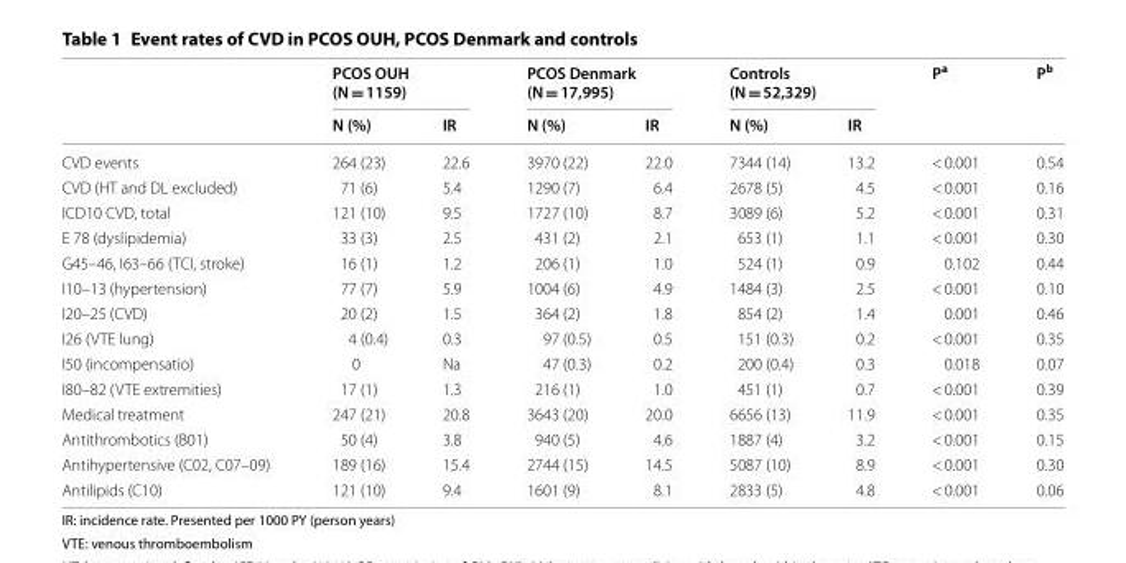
<table><thead><tr><td rowspan="2"></td><td colspan="2">PCOS OUH (N = 1159)</td><td colspan="2">PCOS Denmark (N = 17,995)</td><td colspan="2">Controls (N = 52,329)</td><td rowspan="2">P<sup>a</sup></td><td rowspan="2">P<sup>b</sup></td></tr><tr><td>N (%)</td><td>IR</td><td>N (%)</td><td>IR</td><td>N (%)</td><td>IR</td></tr></thead><tbody><tr><td>CVD events</td><td>264 (23)</td><td>22.6</td><td>3970 (22)</td><td>22.0</td><td>7344 (14)</td><td>13.2</td><td>&lt; 0.001</td><td>0.54</td></tr><tr><td>CVD (HT and DL excluded)</td><td>71 (6)</td><td>5.4</td><td>1290 (7)</td><td>6.4</td><td>2678 (5)</td><td>4.5</td><td>&lt; 0.001</td><td>0.16</td></tr><tr><td>ICD10 CVD, total</td><td>121 (10)</td><td>9.5</td><td>1727 (10)</td><td>8.7</td><td>3089 (6)</td><td>5.2</td><td>&lt; 0.001</td><td>0.31</td></tr><tr><td>E 78 (dyslipidemia)</td><td>33 (3)</td><td>2.5</td><td>431 (2)</td><td>2.1</td><td>653 (1)</td><td>1.1</td><td>&lt; 0.001</td><td>0.30</td></tr><tr><td>G45–46, I63–66 (TCI, stroke)</td><td>16 (1)</td><td>1.2</td><td>206 (1)</td><td>1.0</td><td>524 (1)</td><td>0.9</td><td>0.102</td><td>0.44</td></tr><tr><td>I10–13 (hypertension)</td><td>77 (7)</td><td>5.9</td><td>1004 (6)</td><td>4.9</td><td>1484 (3)</td><td>2.5</td><td>&lt; 0.001</td><td>0.10</td></tr><tr><td>I20–25 (CVD)</td><td>20 (2)</td><td>1.5</td><td>364 (2)</td><td>1.8</td><td>854 (2)</td><td>1.4</td><td>0.001</td><td>0.46</td></tr><tr><td>I26 (VTE lung)</td><td>4 (0.4)</td><td>0.3</td><td>97 (0.5)</td><td>0.5</td><td>151 (0.3)</td><td>0.2</td><td>&lt; 0.001</td><td>0.35</td></tr><tr><td>I50 (incompensatio)</td><td>0</td><td>Na</td><td>47 (0.3)</td><td>0.2</td><td>200 (0.4)</td><td>0.3</td><td>0.018</td><td>0.07</td></tr><tr><td>I80–82 (VTE extremities)</td><td>17 (1)</td><td>1.3</td><td>216 (1)</td><td>1.0</td><td>451 (1)</td><td>0.7</td><td>&lt; 0.001</td><td>0.39</td></tr><tr><td>Medical treatment</td><td>247 (21)</td><td>20.8</td><td>3643 (20)</td><td>20.0</td><td>6656 (13)</td><td>11.9</td><td>&lt; 0.001</td><td>0.35</td></tr><tr><td>Antithrombotics (B01)</td><td>50 (4)</td><td>3.8</td><td>940 (5)</td><td>4.6</td><td>1887 (4)</td><td>3.2</td><td>&lt; 0.001</td><td>0.15</td></tr><tr><td>Antihypertensive (C02, C07–09)</td><td>189 (16)</td><td>15.4</td><td>2744 (15)</td><td>14.5</td><td>5087 (10)</td><td>8.9</td><td>&lt; 0.001</td><td>0.30</td></tr><tr><td>Antilipids (C10)</td><td>121 (10)</td><td>9.4</td><td>1601 (9)</td><td>8.1</td><td>2833 (5)</td><td>4.8</td><td>&lt; 0.001</td><td>0.06</td></tr></tbody></table>